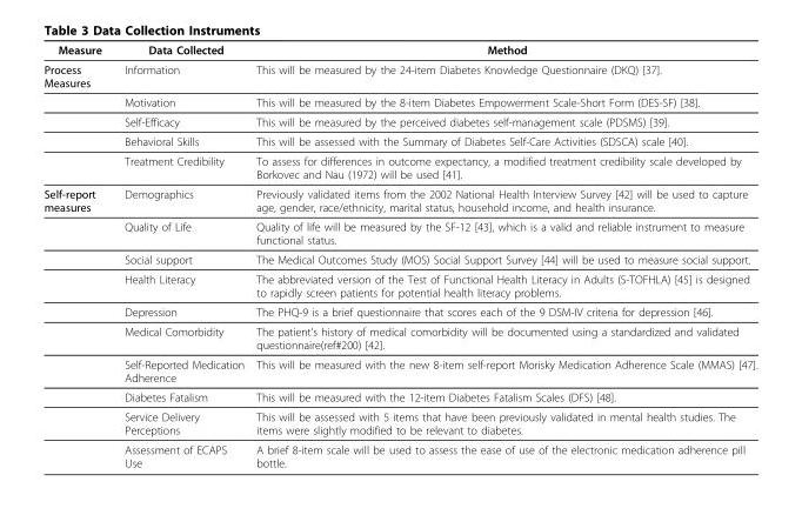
<table><thead><tr><td>Measure</td><td>Data Collected</td><td>Method</td></tr></thead><tbody><tr><td rowspan="5">Process Measures</td><td>Information</td><td>This will be measured by the 24-item Diabetes Knowledge Questionnaire (DKQ) [37].</td></tr><tr><td>Motivation</td><td>This will be measured by the 8-item Diabetes Empowerment Scale-Short Form (DES-SF) [38].</td></tr><tr><td>Self-Efficacy</td><td>This will be measured by the perceived diabetes self-management scale (PDSMS) [39].</td></tr><tr><td>Behavioral Skills</td><td>This will be assessed with the Summary of Diabetes Self-Care Activities (SDSCA) scale [40].</td></tr><tr><td>Treatment Credibility</td><td>To assess for differences in outcome expectancy, a modified treatment credibility scale developed by Borkovec and Nau (1972) will be used [41].</td></tr><tr><td rowspan="10">Self-report measures</td><td>Demographics</td><td>Previously validated items from the 2002 National Health Interview Survey [42] will be used to capture age, gender, race/ethnicity, marital status, household income, and health insurance.</td></tr><tr><td>Quality of Life</td><td>Quality of life will be measured by the SF-12 [43], which is a valid and reliable instrument to measure functional status.</td></tr><tr><td>Social support</td><td>The Medical Outcomes Study (MOS) Social Support Survey [44] will be used to measure social support.</td></tr><tr><td>Health Literacy</td><td>The abbreviated version of the Test of Functional Health Literacy in Adults (S-TOFHLA) [45] is designed to rapidly screen patients for potential health literacy problems.</td></tr><tr><td>Depression</td><td>The PHQ-9 is a brief questionnaire that scores each of the 9 DSM-IV criteria for depression [46].</td></tr><tr><td>Medical Comorbidity</td><td>The patient’s history of medical comorbidity will be documented using a standardized and validated questionnaire(ref#200) [42].</td></tr><tr><td>Self-Reported Medication Adherence</td><td>This will be measured with the new 8-item self-report Morisky Medication Adherence Scale (MMAS) [47].</td></tr><tr><td>Diabetes Fatalism</td><td>This will be measured with the 12-item Diabetes Fatalism Scales (DFS) [48].</td></tr><tr><td>Service Delivery Perceptions</td><td>This will be assessed with 5 items that have been previously validated in mental health studies. The items were slightly modified to be relevant to diabetes.</td></tr><tr><td>Assessment of ECAPS Use</td><td>A brief 8-item scale will be used to assess the ease of use of the electronic medication adherence pill bottle.</td></tr></tbody></table>